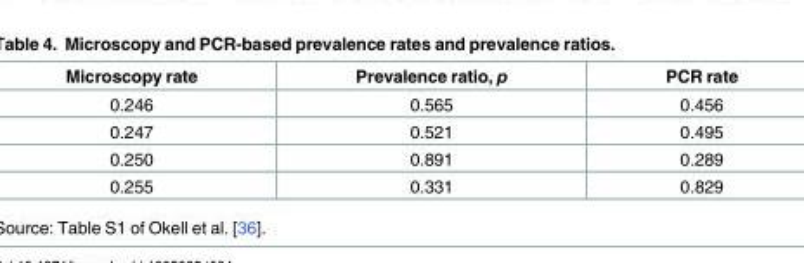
<table><thead><tr><td>Microscopy rate</td><td>Prevalence ratio, p</td><td>PCR rate</td></tr></thead><tbody><tr><td>0.246</td><td>0.565</td><td>0.456</td></tr><tr><td>0.247</td><td>0.521</td><td>0.495</td></tr><tr><td>0.250</td><td>0.891</td><td>0.289</td></tr><tr><td>0.255</td><td>0.331</td><td>0.829</td></tr></tbody></table>